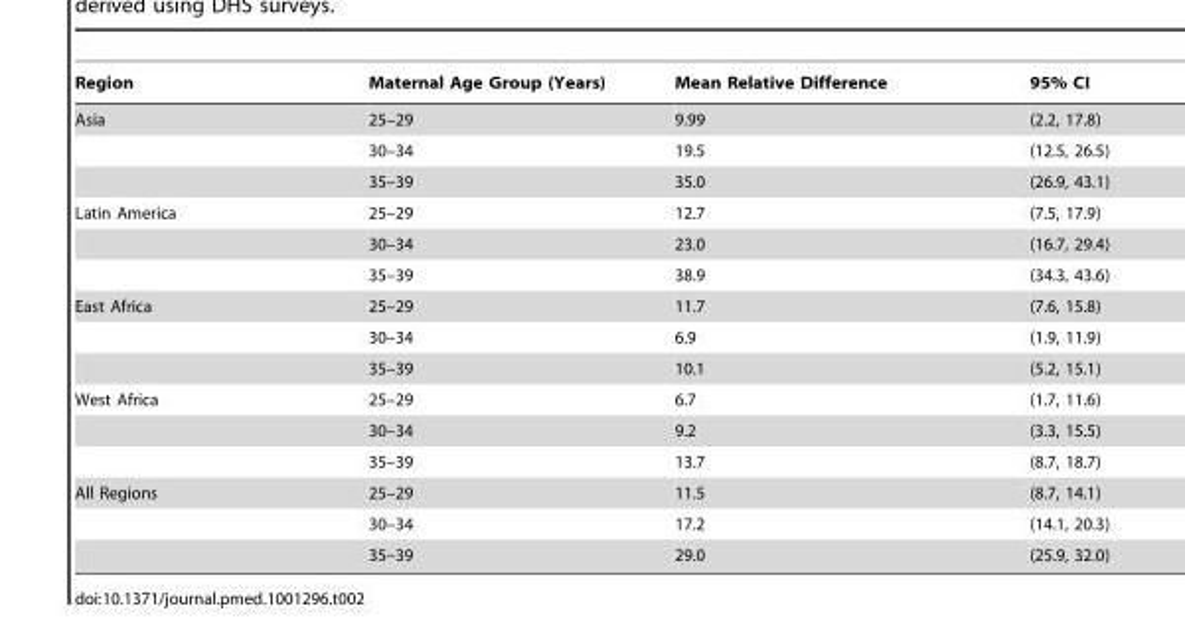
<table><thead><tr><td>Region</td><td>Maternal Age Group (Years)</td><td>Mean Relative Difference</td><td>95% CI</td></tr></thead><tbody><tr><td rowspan="3">Asia</td><td>25–29</td><td>9.99</td><td>(2.2, 17.8)</td></tr><tr><td>30–34</td><td>19.5</td><td>(12.5, 26.5)</td></tr><tr><td>35–39</td><td>35.0</td><td>(26.9, 43.1)</td></tr><tr><td rowspan="3">Latin America</td><td>25–29</td><td>12.7</td><td>(7.5, 17.9)</td></tr><tr><td>30–34</td><td>23.0</td><td>(16.7, 29.4)</td></tr><tr><td>35–39</td><td>38.9</td><td>(34.3, 43.6)</td></tr><tr><td rowspan="3">East Africa</td><td>25–29</td><td>11.7</td><td>(7.6, 15.8)</td></tr><tr><td>30–34</td><td>6.9</td><td>(1.9, 11.9)</td></tr><tr><td>35–39</td><td>10.1</td><td>(5.2, 15.1)</td></tr><tr><td rowspan="3">West Africa</td><td>25–29</td><td>6.7</td><td>(1.7, 11.6)</td></tr><tr><td>30–34</td><td>9.2</td><td>(3.3, 15.5)</td></tr><tr><td>35–39</td><td>13.7</td><td>(8.7, 18.7)</td></tr><tr><td rowspan="3">All Regions</td><td>25–29</td><td>11.5</td><td>(8.7, 14.1)</td></tr><tr><td>30–34</td><td>17.2</td><td>(14.1, 20.3)</td></tr><tr><td>35–39</td><td>29.0</td><td>(25.9, 32.0)</td></tr></tbody></table>